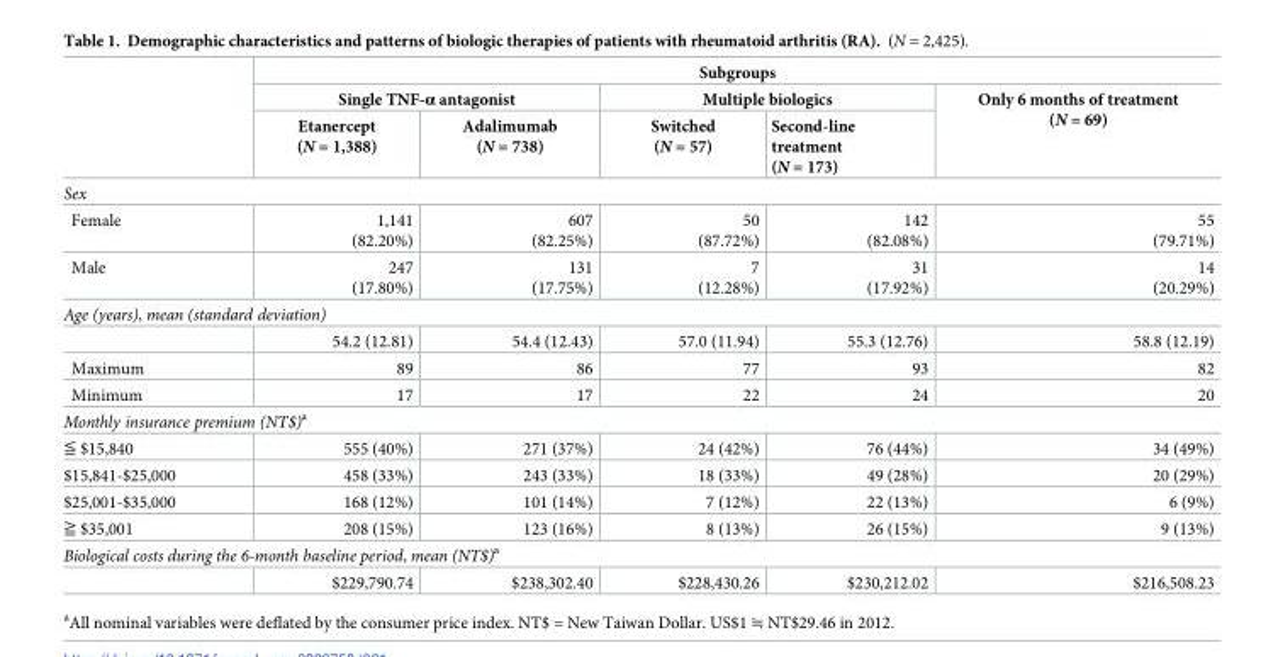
<table><thead><tr><td rowspan="3"></td><td colspan="5">Subgroups</td></tr><tr><td colspan="2">Single TNF-α antagonist</td><td colspan="2">Multiple biologics</td><td rowspan="2">Only 6 months of treatment (N = 69)</td></tr><tr><td>Etanercept (N = 1,388)</td><td>Adalimumab (N = 738)</td><td>Switched (N = 57)</td><td>Second-line treatment (N = 173)</td></tr></thead><tbody><tr><td colspan="6">Sex</td></tr><tr><td>Female</td><td>1,141 (82.20%)</td><td>607 (82.25%)</td><td>50 (87.72%)</td><td>142 (82.08%)</td><td>55 (79.71%)</td></tr><tr><td>Male</td><td>247 (17.80%)</td><td>131 (17.75%)</td><td>7 (12.28%)</td><td>31 (17.92%)</td><td>14 (20.29%)</td></tr><tr><td colspan="6">Age (years), mean (standard deviation)</td></tr><tr><td></td><td>54.2 (12.81)</td><td>54.4 (12.43)</td><td>57.0 (11.94)</td><td>55.3 (12.76)</td><td>58.8 (12.19)</td></tr><tr><td>Maximum</td><td>89</td><td>86</td><td>77</td><td>93</td><td>82</td></tr><tr><td>Minimum</td><td>17</td><td>17</td><td>22</td><td>24</td><td>20</td></tr><tr><td colspan="6">Monthly insurance premium (NT$)<sup>a</sup></td></tr><tr><td>≦ $15,840</td><td>555 (40%)</td><td>271 (37%)</td><td>24 (42%)</td><td>76 (44%)</td><td>34 (49%)</td></tr><tr><td>$15,841-$25,000</td><td>458 (33%)</td><td>243 (33%)</td><td>18 (33%)</td><td>49 (28%)</td><td>20 (29%)</td></tr><tr><td>$25,001-$35,000</td><td>168 (12%)</td><td>101 (14%)</td><td>7 (12%)</td><td>22 (13%)</td><td>6 (9%)</td></tr><tr><td>≧ $35,001</td><td>208 (15%)</td><td>123 (16%)</td><td>8 (13%)</td><td>26 (15%)</td><td>9 (13%)</td></tr><tr><td colspan="6">Biological costs during the 6-month baseline period, mean (NT$)<sup>a</sup></td></tr><tr><td></td><td>$229,790.74</td><td>$238,302.40</td><td>$228,430.26</td><td>$230,212.02</td><td>$216,508.23</td></tr></tbody></table>